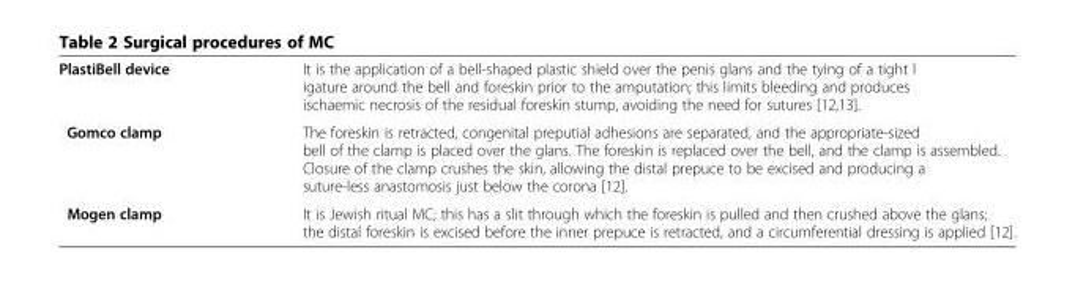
<table><tbody><tr><td>PlastiBell device</td><td>It is the application of a bell-shaped plastic shield over the penis glans and the tying of a tight l igature around the bell and foreskin prior to the amputation; this limits bleeding and produces ischaemic necrosis of the residual foreskin stump, avoiding the need for sutures [12,13].</td></tr><tr><td>Gomco clamp</td><td>The foreskin is retracted, congenital preputial adhesions are separated, and the appropriate-sized bell of the clamp is placed over the glans. The foreskin is replaced over the bell, and the clamp is assembled. Closure of the clamp crushes the skin, allowing the distal prepuce to be excised and producing a suture-less anastomosis just below the corona [12].</td></tr><tr><td>Mogen clamp</td><td>It is Jewish ritual MC; this has a slit through which the foreskin is pulled and then crushed above the glans; the distal foreskin is excised before the inner prepuce is retracted, and a circumferential dressing is applied [12].</td></tr></tbody></table>